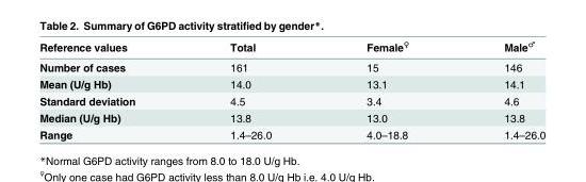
<table><thead><tr><td>Reference values</td><td>Total</td><td>Female<sup>♀</sup></td><td>Male<sup>♂</sup></td></tr></thead><tbody><tr><td>Number of cases</td><td>161</td><td>15</td><td>146</td></tr><tr><td>Mean (U/g Hb)</td><td>14.0</td><td>13.1</td><td>14.1</td></tr><tr><td>Standard deviation</td><td>4.5</td><td>3.4</td><td>4.6</td></tr><tr><td>Median (U/g Hb)</td><td>13.8</td><td>13.0</td><td>13.8</td></tr><tr><td>Range</td><td>1.4–26.0</td><td>4.0–18.8</td><td>1.4–26.0</td></tr></tbody></table>